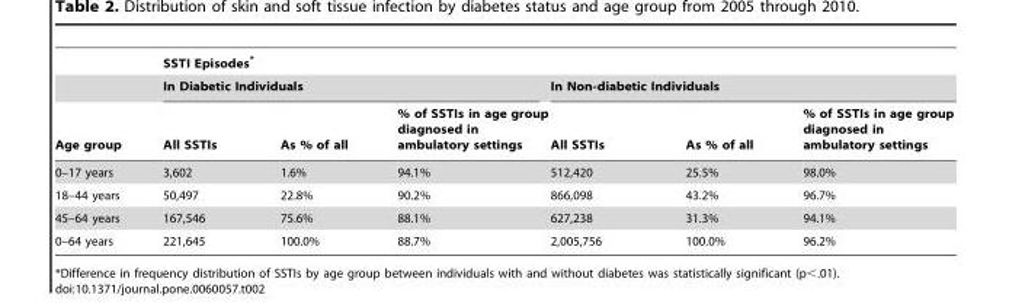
<table><thead><tr><td rowspan="3">Age group</td><td colspan="6">SSTI Episodes*</td></tr><tr><td colspan="3">In Diabetic Individuals</td><td colspan="3">In Non-diabetic Individuals</td></tr><tr><td>All SSTIs</td><td>As % of all</td><td>% of SSTIs in age group diagnosed in ambulatory settings</td><td>All SSTIs</td><td>As % of all</td><td>% of SSTIs in age group diagnosed in ambulatory settings</td></tr></thead><tbody><tr><td>0–17 years</td><td>3,602</td><td>1.6%</td><td>94.1%</td><td>512,420</td><td>25.5%</td><td>98.0%</td></tr><tr><td>18–44 years</td><td>50,497</td><td>22.8%</td><td>90.2%</td><td>866,098</td><td>43.2%</td><td>96.7%</td></tr><tr><td>45–64 years</td><td>167,546</td><td>75.6%</td><td>88.1%</td><td>627,238</td><td>31.3%</td><td>94.1%</td></tr><tr><td>0–64 years</td><td>221,645</td><td>100.0%</td><td>88.7%</td><td>2,005,756</td><td>100.0%</td><td>96.2%</td></tr></tbody></table>